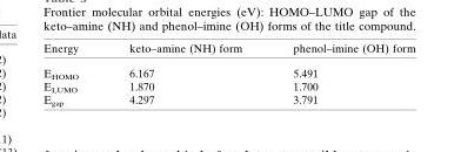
<table><thead><tr><td>Energy</td><td>keto–amine (NH) form</td><td>phenol–imine (OH) form</td></tr></thead><tbody><tr><td>E<sub>HOMO</sub></td><td>6.167</td><td>5.491</td></tr><tr><td>E<sub>LUMO</sub></td><td>1.870</td><td>1.700</td></tr><tr><td>E<sub>gap</sub></td><td>4.297</td><td>3.791</td></tr></tbody></table>